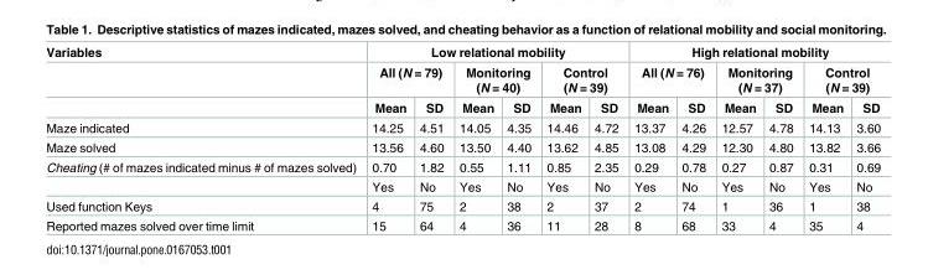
<table><thead><tr><td rowspan="3">Variables</td><td colspan="6">Low relational mobility</td><td colspan="6">High relational mobility</td></tr><tr><td colspan="2">All (N = 79)</td><td colspan="2">Monitoring (N = 40)</td><td colspan="2">Control (N = 39)</td><td colspan="2">All (N = 76)</td><td colspan="2">Monitoring (N = 37)</td><td colspan="2">Control (N = 39)</td></tr><tr><td>Mean</td><td>SD</td><td>Mean</td><td>SD</td><td>Mean</td><td>SD</td><td>Mean</td><td>SD</td><td>Mean</td><td>SD</td><td>Mean</td><td>SD</td></tr></thead><tbody><tr><td>Maze indicated</td><td>14.25</td><td>4.51</td><td>14.05</td><td>4.35</td><td>14.46</td><td>4.72</td><td>13.37</td><td>4.26</td><td>12.57</td><td>4.78</td><td>14.13</td><td>3.60</td></tr><tr><td>Maze solved</td><td>13.56</td><td>4.60</td><td>13.50</td><td>4.40</td><td>13.62</td><td>4.85</td><td>13.08</td><td>4.29</td><td>12.30</td><td>4.80</td><td>13.82</td><td>3.66</td></tr><tr><td rowspan="2">Cheating (# of mazes indicated minus # of mazes solved)</td><td>0.70</td><td>1.82</td><td>0.55</td><td>1.11</td><td>0.85</td><td>2.35</td><td>0.29</td><td>0.78</td><td>0.27</td><td>0.87</td><td>0.31</td><td>0.69</td></tr><tr><td>Yes</td><td>No</td><td>Yes</td><td>No</td><td>Yes</td><td>No</td><td>Yes</td><td>No</td><td>Yes</td><td>No</td><td>Yes</td><td>No</td></tr><tr><td>Used function Keys</td><td>4</td><td>75</td><td>2</td><td>38</td><td>2</td><td>37</td><td>2</td><td>74</td><td>1</td><td>36</td><td>1</td><td>38</td></tr><tr><td>Reported mazes solved over time limit</td><td>15</td><td>64</td><td>4</td><td>36</td><td>11</td><td>28</td><td>8</td><td>68</td><td>33</td><td>4</td><td>35</td><td>4</td></tr></tbody></table>